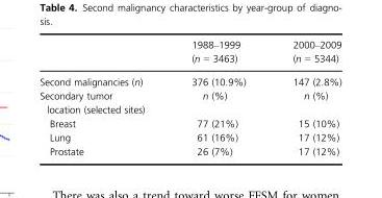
<table><thead><tr><td></td><td>1988–1999 (n = 3463)</td><td>2000–2009 (n = 5344)</td></tr></thead><tbody><tr><td>Second malignancies (n)</td><td>376 (10.9%)</td><td>147 (2.8%)</td></tr><tr><td>Secondary tumor location (selected sites)</td><td>n (%)</td><td>n (%)</td></tr><tr><td>Breast</td><td>77 (21%)</td><td>15 (10%)</td></tr><tr><td>Lung</td><td>61 (16%)</td><td>17 (12%)</td></tr><tr><td>Prostate</td><td>26 (7%)</td><td>17 (12%)</td></tr></tbody></table>